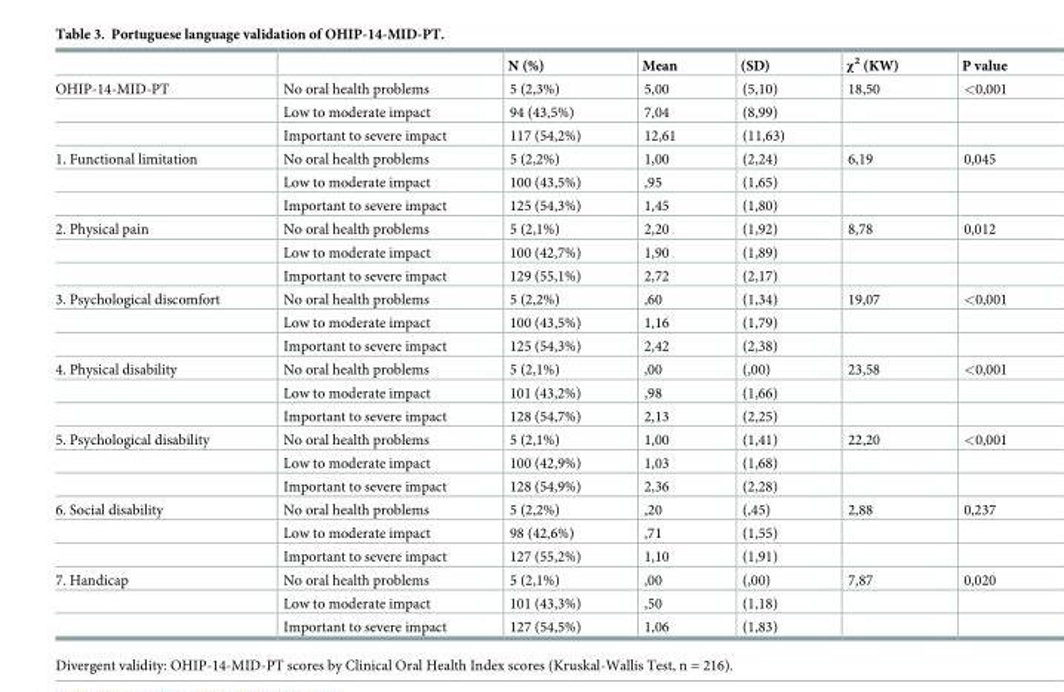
<table><thead><tr><td></td><td></td><td>N (%)</td><td>Mean</td><td>(SD)</td><td>χ<sup>2</sup> (KW)</td><td>P value</td></tr></thead><tbody><tr><td rowspan="3">OHIP-14-MID-PT</td><td>No oral health problems</td><td>5 (2,3%)</td><td>5,00</td><td>(5,10)</td><td>18,50</td><td>&lt;0,001</td></tr><tr><td>Low to moderate impact</td><td>94 (43,5%)</td><td>7,04</td><td>(8,99)</td><td></td><td></td></tr><tr><td>Important to severe impact</td><td>117 (54,2%)</td><td>12,61</td><td>(11,63)</td><td></td><td></td></tr><tr><td rowspan="3">1. Functional limitation</td><td>No oral health problems</td><td>5 (2,2%)</td><td>1,00</td><td>(2,24)</td><td>6,19</td><td>0,045</td></tr><tr><td>Low to moderate impact</td><td>100 (43,5%)</td><td>,95</td><td>(1,65)</td><td></td><td></td></tr><tr><td>Important to severe impact</td><td>125 (54,3%)</td><td>1,45</td><td>(1,80)</td><td></td><td></td></tr><tr><td rowspan="3">2. Physical pain</td><td>No oral health problems</td><td>5 (2,1%)</td><td>2,20</td><td>(1,92)</td><td>8,78</td><td>0,012</td></tr><tr><td>Low to moderate impact</td><td>100 (42,7%)</td><td>1,90</td><td>(1,89)</td><td></td><td></td></tr><tr><td>Important to severe impact</td><td>129 (55,1%)</td><td>2,72</td><td>(2,17)</td><td></td><td></td></tr><tr><td rowspan="3">3. Psychological discomfort</td><td>No oral health problems</td><td>5 (2,2%)</td><td>,60</td><td>(1,34)</td><td>19,07</td><td>&lt;0,001</td></tr><tr><td>Low to moderate impact</td><td>100 (43,5%)</td><td>1,16</td><td>(1,79)</td><td></td><td></td></tr><tr><td>Important to severe impact</td><td>125 (54,3%)</td><td>2,42</td><td>(2,38)</td><td></td><td></td></tr><tr><td rowspan="3">4. Physical disability</td><td>No oral health problems</td><td>5 (2,1%)</td><td>,00</td><td>(,00)</td><td>23,58</td><td>&lt;0,001</td></tr><tr><td>Low to moderate impact</td><td>101 (43,2%)</td><td>,98</td><td>(1,66)</td><td></td><td></td></tr><tr><td>Important to severe impact</td><td>128 (54,7%)</td><td>2,13</td><td>(2,25)</td><td></td><td></td></tr><tr><td rowspan="3">5. Psychological disability</td><td>No oral health problems</td><td>5 (2,1%)</td><td>1,00</td><td>(1,41)</td><td>22,20</td><td>&lt;0,001</td></tr><tr><td>Low to moderate impact</td><td>100 (42,9%)</td><td>1,03</td><td>(1,68)</td><td></td><td></td></tr><tr><td>Important to severe impact</td><td>128 (54,9%)</td><td>2,36</td><td>(2,28)</td><td></td><td></td></tr><tr><td rowspan="3">6. Social disability</td><td>No oral health problems</td><td>5 (2,2%)</td><td>,20</td><td>(,45)</td><td>2,88</td><td>0,237</td></tr><tr><td>Low to moderate impact</td><td>98 (42,6%)</td><td>,71</td><td>(1,55)</td><td></td><td></td></tr><tr><td>Important to severe impact</td><td>127 (55,2%)</td><td>1,10</td><td>(1,91)</td><td></td><td></td></tr><tr><td rowspan="3">7. Handicap</td><td>No oral health problems</td><td>5 (2,1%)</td><td>,00</td><td>(,00)</td><td>7,87</td><td>0,020</td></tr><tr><td>Low to moderate impact</td><td>101 (43,3%)</td><td>,50</td><td>(1,18)</td><td></td><td></td></tr><tr><td>Important to severe impact</td><td>127 (54,5%)</td><td>1,06</td><td>(1,83)</td><td></td><td></td></tr></tbody></table>